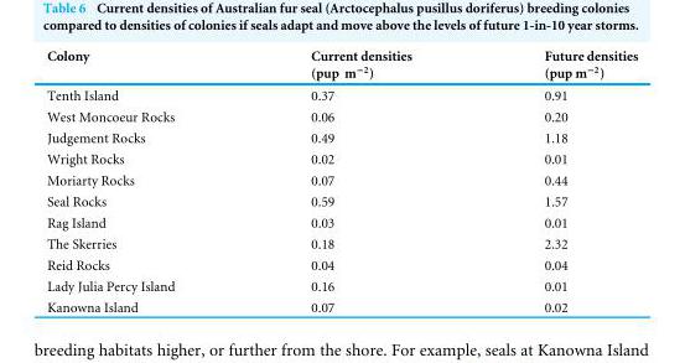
<table><thead><tr><td>Colony</td><td>Current densities (pup m<sup>−2</sup>)</td><td>Future densities (pup m<sup>−2</sup>)</td></tr></thead><tbody><tr><td>Tenth Island</td><td>0.37</td><td>0.91</td></tr><tr><td>West Moncoeur Rocks</td><td>0.06</td><td>0.20</td></tr><tr><td>Judgement Rocks</td><td>0.49</td><td>1.18</td></tr><tr><td>Wright Rocks</td><td>0.02</td><td>0.01</td></tr><tr><td>Moriarty Rocks</td><td>0.07</td><td>0.44</td></tr><tr><td>Seal Rocks</td><td>0.59</td><td>1.57</td></tr><tr><td>Rag Island</td><td>0.03</td><td>0.01</td></tr><tr><td>The Skerries</td><td>0.18</td><td>2.32</td></tr><tr><td>Reid Rocks</td><td>0.04</td><td>0.04</td></tr><tr><td>Lady Julia Percy Island</td><td>0.16</td><td>0.01</td></tr><tr><td>Kanowna Island</td><td>0.07</td><td>0.02</td></tr></tbody></table>